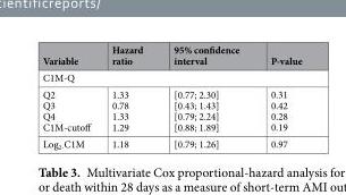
<table><thead><tr><td>Variable</td><td>Hazard ratio</td><td>95% confidence interval</td><td>P-value</td></tr></thead><tbody><tr><td colspan="4">C1M-Q</td></tr><tr><td>Q2 Q3 Q4 C1M-cutoff</td><td>1.33 0.78 1.33 1.29</td><td>[0.77; 2.30] [0.43; 1.43] [0.79; 2.24] [0.88; 1.89]</td><td>0.31 0.42 0.28 0.19</td></tr><tr><td>Log<sub>2-</sub>C1M</td><td>1.18</td><td>[0.79; 1.26]</td><td>0.97</td></tr></tbody></table>